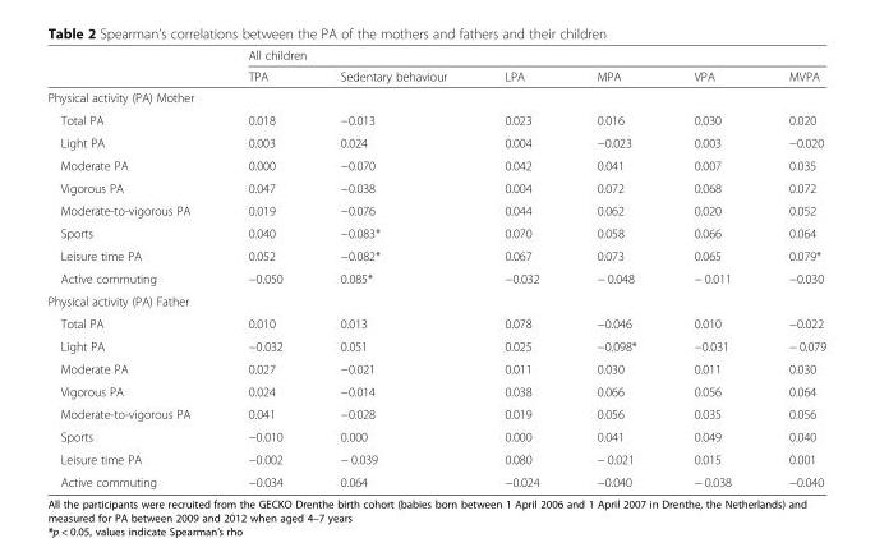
<table><thead><tr><td rowspan="2"></td><td colspan="6">All children</td></tr><tr><td>TPA</td><td>Sedentary behaviour</td><td>LPA</td><td>MPA</td><td>VPA</td><td>MVPA</td></tr></thead><tbody><tr><td colspan="7">Physical activity (PA) Mother</td></tr><tr><td>Total PA</td><td>0.018</td><td>−0.013</td><td>0.023</td><td>0.016</td><td>0.030</td><td>0.020</td></tr><tr><td>Light PA</td><td>0.003</td><td>0.024</td><td>0.004</td><td>−0.023</td><td>0.003</td><td>−0.020</td></tr><tr><td>Moderate PA</td><td>0.000</td><td>−0.070</td><td>0.042</td><td>0.041</td><td>0.007</td><td>0.035</td></tr><tr><td>Vigorous PA</td><td>0.047</td><td>−0.038</td><td>0.004</td><td>0.072</td><td>0.068</td><td>0.072</td></tr><tr><td>Moderate-to-vigorous PA</td><td>0.019</td><td>−0.076</td><td>0.044</td><td>0.062</td><td>0.020</td><td>0.052</td></tr><tr><td>Sports</td><td>0.040</td><td>−0.083*</td><td>0.070</td><td>0.058</td><td>0.066</td><td>0.064</td></tr><tr><td>Leisure time PA</td><td>0.052</td><td>−0.082*</td><td>0.067</td><td>0.073</td><td>0.065</td><td>0.079*</td></tr><tr><td>Active commuting</td><td>−0.050</td><td>0.085*</td><td>−0.032</td><td>− 0.048</td><td>− 0.011</td><td>−0.030</td></tr><tr><td colspan="7">Physical activity (PA) Father</td></tr><tr><td>Total PA</td><td>0.010</td><td>0.013</td><td>0.078</td><td>−0.046</td><td>0.010</td><td>−0.022</td></tr><tr><td>Light PA</td><td>−0.032</td><td>0.051</td><td>0.025</td><td>−0.098*</td><td>−0.031</td><td>− 0.079</td></tr><tr><td>Moderate PA</td><td>0.027</td><td>−0.021</td><td>0.011</td><td>0.030</td><td>0.011</td><td>0.030</td></tr><tr><td>Vigorous PA</td><td>0.024</td><td>−0.014</td><td>0.038</td><td>0.066</td><td>0.056</td><td>0.064</td></tr><tr><td>Moderate-to-vigorous PA</td><td>0.041</td><td>−0.028</td><td>0.019</td><td>0.056</td><td>0.035</td><td>0.056</td></tr><tr><td>Sports</td><td>−0.010</td><td>0.000</td><td>0.000</td><td>0.041</td><td>0.049</td><td>0.040</td></tr><tr><td>Leisure time PA</td><td>−0.002</td><td>− 0.039</td><td>0.080</td><td>− 0.021</td><td>0.015</td><td>0.001</td></tr><tr><td>Active commuting</td><td>−0.034</td><td>0.064</td><td>−0.024</td><td>−0.040</td><td>− 0.038</td><td>−0.040</td></tr></tbody></table>